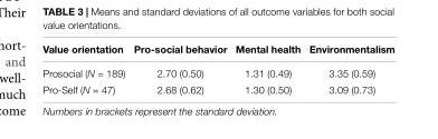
<table><thead><tr><td>Value orientation</td><td>Pro-social behavior</td><td>Mental health</td><td>Environmentalism</td></tr></thead><tbody><tr><td>Prosocial (N = 189)</td><td>2.70 (0.50)</td><td>1.31 (0.49)</td><td>3.35 (0.59)</td></tr><tr><td>Pro-Self (N = 47)</td><td>2.68 (0.62)</td><td>1.30 (0.50)</td><td>3.09 (0.73)</td></tr></tbody></table>